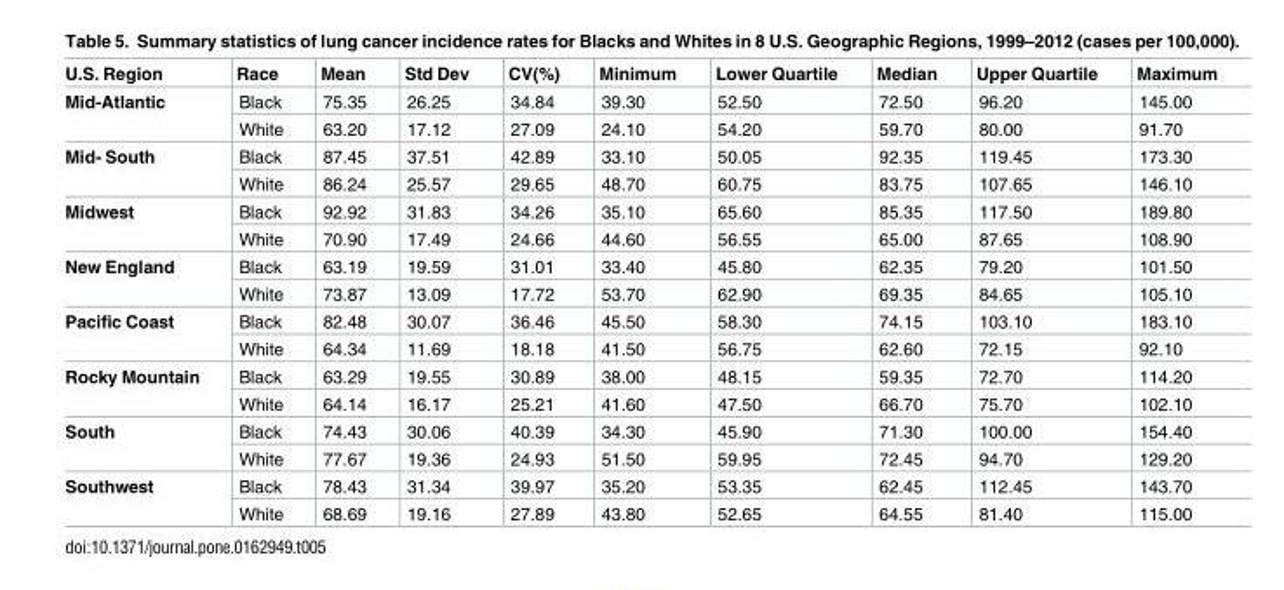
<table><thead><tr><td>U.S. Region</td><td>Race</td><td>Mean</td><td>Std Dev</td><td>CV(%)</td><td>Minimum</td><td>Lower Quartile</td><td>Median</td><td>Upper Quartile</td><td>Maximum</td></tr></thead><tbody><tr><td rowspan="2">Mid-Atlantic</td><td>Black</td><td>75.35</td><td>26.25</td><td>34.84</td><td>39.30</td><td>52.50</td><td>72.50</td><td>96.20</td><td>145.00</td></tr><tr><td>White</td><td>63.20</td><td>17.12</td><td>27.09</td><td>24.10</td><td>54.20</td><td>59.70</td><td>80.00</td><td>91.70</td></tr><tr><td rowspan="2">Mid- South</td><td>Black</td><td>87.45</td><td>37.51</td><td>42.89</td><td>33.10</td><td>50.05</td><td>92.35</td><td>119.45</td><td>173.30</td></tr><tr><td>White</td><td>86.24</td><td>25.57</td><td>29.65</td><td>48.70</td><td>60.75</td><td>83.75</td><td>107.65</td><td>146.10</td></tr><tr><td rowspan="2">Midwest</td><td>Black</td><td>92.92</td><td>31.83</td><td>34.26</td><td>35.10</td><td>65.60</td><td>85.35</td><td>117.50</td><td>189.80</td></tr><tr><td>White</td><td>70.90</td><td>17.49</td><td>24.66</td><td>44.60</td><td>56.55</td><td>65.00</td><td>87.65</td><td>108.90</td></tr><tr><td rowspan="2">New England</td><td>Black</td><td>63.19</td><td>19.59</td><td>31.01</td><td>33.40</td><td>45.80</td><td>62.35</td><td>79.20</td><td>101.50</td></tr><tr><td>White</td><td>73.87</td><td>13.09</td><td>17.72</td><td>53.70</td><td>62.90</td><td>69.35</td><td>84.65</td><td>105.10</td></tr><tr><td rowspan="2">Pacific Coast</td><td>Black</td><td>82.48</td><td>30.07</td><td>36.46</td><td>45.50</td><td>58.30</td><td>74.15</td><td>103.10</td><td>183.10</td></tr><tr><td>White</td><td>64.34</td><td>11.69</td><td>18.18</td><td>41.50</td><td>56.75</td><td>62.60</td><td>72.15</td><td>92.10</td></tr><tr><td rowspan="2">Rocky Mountain</td><td>Black</td><td>63.29</td><td>19.55</td><td>30.89</td><td>38.00</td><td>48.15</td><td>59.35</td><td>72.70</td><td>114.20</td></tr><tr><td>White</td><td>64.14</td><td>16.17</td><td>25.21</td><td>41.60</td><td>47.50</td><td>66.70</td><td>75.70</td><td>102.10</td></tr><tr><td rowspan="2">South</td><td>Black</td><td>74.43</td><td>30.06</td><td>40.39</td><td>34.30</td><td>45.90</td><td>71.30</td><td>100.00</td><td>154.40</td></tr><tr><td>White</td><td>77.67</td><td>19.36</td><td>24.93</td><td>51.50</td><td>59.95</td><td>72.45</td><td>94.70</td><td>129.20</td></tr><tr><td rowspan="2">Southwest</td><td>Black</td><td>78.43</td><td>31.34</td><td>39.97</td><td>35.20</td><td>53.35</td><td>62.45</td><td>112.45</td><td>143.70</td></tr><tr><td>White</td><td>68.69</td><td>19.16</td><td>27.89</td><td>43.80</td><td>52.65</td><td>64.55</td><td>81.40</td><td>115.00</td></tr></tbody></table>